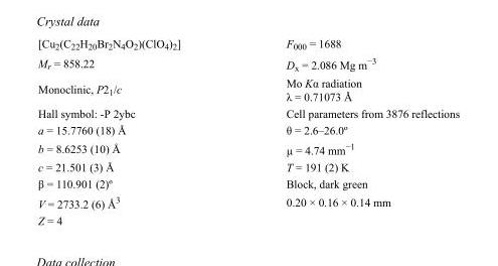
<table><tbody><tr><td>[Cu<sub>2</sub>(C<sub>22</sub>H<sub>20</sub>Br<sub>2</sub>N<sub>4</sub>O<sub>2</sub>)(ClO<sub>4</sub>)<sub>2</sub>]</td><td>F<sub>000</sub> = 1688</td></tr><tr><td>M<sub>r</sub> = 858.22</td><td>D<sub>x</sub> = 2.086 Mg m<sup>−3</sup></td></tr><tr><td>Monoclinic, P2<sub>1</sub>/c</td><td>Mo Kα radiation λ = 0.71073 Å</td></tr><tr><td>Hall symbol: -P 2ybc</td><td>Cell parameters from 3876 reflections</td></tr><tr><td>a = 15.7760 (18) Å</td><td>θ = 2.6–26.0º</td></tr><tr><td>b = 8.6253 (10) Å</td><td>µ = 4.74 mm<sup>−1</sup></td></tr><tr><td>c = 21.501 (3) Å</td><td>T = 191 (2) K</td></tr><tr><td>β = 110.901 (2)º</td><td>Block, dark green</td></tr><tr><td>V = 2733.2 (6) Å<sup>3</sup></td><td>0.20 × 0.16 × 0.14 mm</td></tr><tr><td>Z = 4</td><td></td></tr></tbody></table>